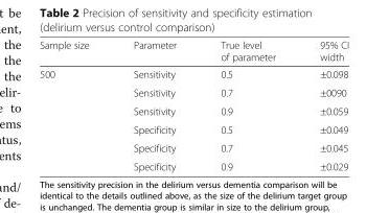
<table><thead><tr><td>Sample size</td><td>Parameter</td><td>True level of parameter</td><td>95% CI width</td></tr></thead><tbody><tr><td rowspan="6">500</td><td>Sensitivity</td><td>0.5</td><td>±0.098</td></tr><tr><td>Sensitivity</td><td>0.7</td><td>±0090</td></tr><tr><td>Sensitivity</td><td>0.9</td><td>±0.059</td></tr><tr><td>Specificity</td><td>0.5</td><td>±0.049</td></tr><tr><td>Specificity</td><td>0.7</td><td>±0.045</td></tr><tr><td>Specificity</td><td>0.9</td><td>±0.029</td></tr></tbody></table>